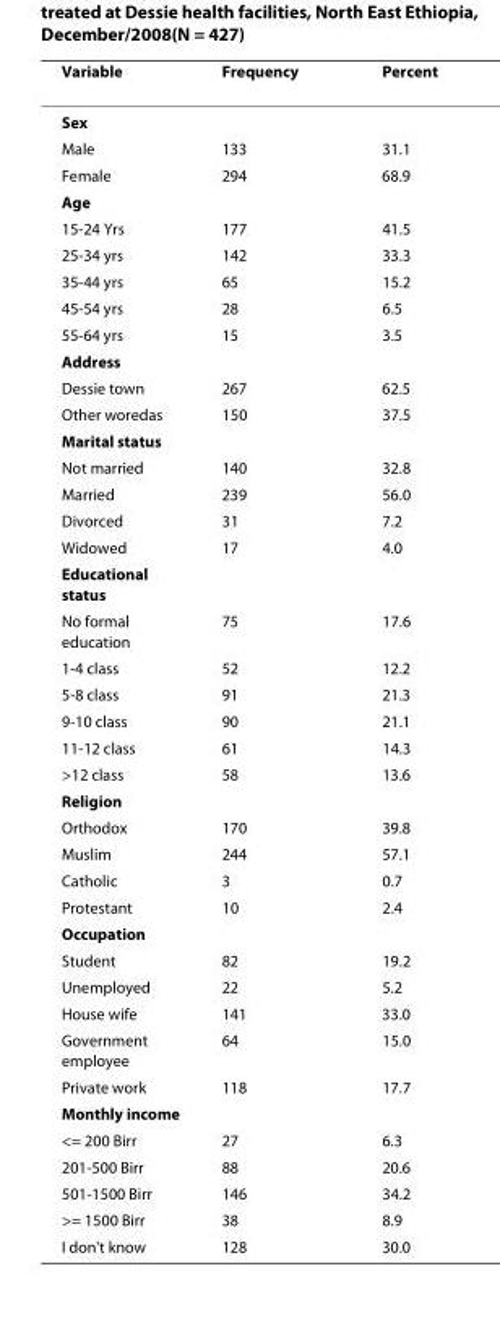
<table><thead><tr><td>Variable</td><td>Frequency</td><td>Percent</td></tr></thead><tbody><tr><td colspan="3">Sex</td></tr><tr><td>Male</td><td>133</td><td>31.1</td></tr><tr><td>Female</td><td>294</td><td>68.9</td></tr><tr><td colspan="3">Age</td></tr><tr><td>15-24 Yrs</td><td>177</td><td>41.5</td></tr><tr><td>25-34 yrs</td><td>142</td><td>33.3</td></tr><tr><td>35-44 yrs</td><td>65</td><td>15.2</td></tr><tr><td>45-54 yrs</td><td>28</td><td>6.5</td></tr><tr><td>55-64 yrs</td><td>15</td><td>3.5</td></tr><tr><td colspan="3">Address</td></tr><tr><td>Dessie town</td><td>267</td><td>62.5</td></tr><tr><td>Other woredas</td><td>150</td><td>37.5</td></tr><tr><td colspan="3">Marital status</td></tr><tr><td>Not married</td><td>140</td><td>32.8</td></tr><tr><td>Married</td><td>239</td><td>56.0</td></tr><tr><td>Divorced</td><td>31</td><td>7.2</td></tr><tr><td>Widowed</td><td>17</td><td>4.0</td></tr><tr><td colspan="3">Educational status</td></tr><tr><td>No formal education</td><td>75</td><td>17.6</td></tr><tr><td>1-4 class</td><td>52</td><td>12.2</td></tr><tr><td>5-8 class</td><td>91</td><td>21.3</td></tr><tr><td>9-10 class</td><td>90</td><td>21.1</td></tr><tr><td>11-12 class</td><td>61</td><td>14.3</td></tr><tr><td>&gt;12 class</td><td>58</td><td>13.6</td></tr><tr><td colspan="3">Religion</td></tr><tr><td>Orthodox</td><td>170</td><td>39.8</td></tr><tr><td>Muslim</td><td>244</td><td>57.1</td></tr><tr><td>Catholic</td><td>3</td><td>0.7</td></tr><tr><td>Protestant</td><td>10</td><td>2.4</td></tr><tr><td colspan="3">Occupation</td></tr><tr><td>Student</td><td>82</td><td>19.2</td></tr><tr><td>Unemployed</td><td>22</td><td>5.2</td></tr><tr><td>House wife</td><td>141</td><td>33.0</td></tr><tr><td>Government employee</td><td>64</td><td>15.0</td></tr><tr><td>Private work</td><td>118</td><td>17.7</td></tr><tr><td colspan="3">Monthly income</td></tr><tr><td>&lt;= 200 Birr</td><td>27</td><td>6.3</td></tr><tr><td>201-500 Birr</td><td>88</td><td>20.6</td></tr><tr><td>501-1500 Birr</td><td>146</td><td>34.2</td></tr><tr><td>&gt;= 1500 Birr</td><td>38</td><td>8.9</td></tr><tr><td>I don&#x27;t know</td><td>128</td><td>30.0</td></tr></tbody></table>